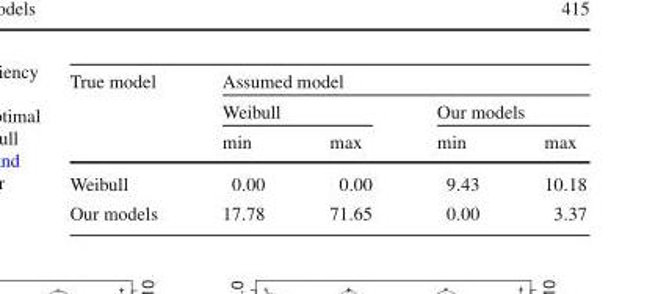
<table><thead><tr><td rowspan="3">True model</td><td colspan="4">Assumed model</td></tr><tr><td colspan="2">Weibull</td><td colspan="2">Our models</td></tr><tr><td>min</td><td>max</td><td>min</td><td>max</td></tr></thead><tbody><tr><td>Weibull</td><td>0.00</td><td>0.00</td><td>9.43</td><td>10.18</td></tr><tr><td>Our models</td><td>17.78</td><td>71.65</td><td>0.00</td><td>3.37</td></tr></tbody></table>